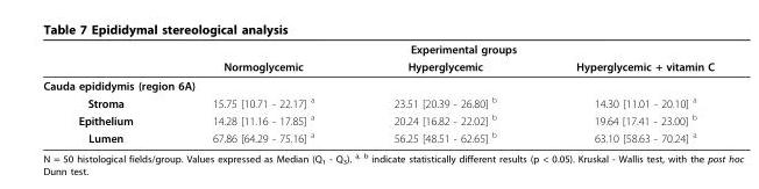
<table><thead><tr><td rowspan="2"></td><td colspan="3">Experimental groups</td></tr><tr><td>Normoglycemic</td><td>Hyperglycemic</td><td>Hyperglycemic + vitamin C</td></tr></thead><tbody><tr><td colspan="4">Cauda epididymis (region 6A)</td></tr><tr><td>Stroma</td><td>15.75 [10.71 - 22.17] <sup>a</sup></td><td>23.51 [20.39 - 26.80] <sup>b</sup></td><td>14.30 [11.01 - 20.10] <sup>a</sup></td></tr><tr><td>Epithelium</td><td>14.28 [11.16 - 17.85] <sup>a</sup></td><td>20.24 [16.82 - 22.02] <sup>b</sup></td><td>19.64 [17.41 - 23.00] <sup>b</sup></td></tr><tr><td>Lumen</td><td>67.86 [64.29 - 75.16] <sup>a</sup></td><td>56.25 [48.51 - 62.65] <sup>b</sup></td><td>63.10 [58.63 - 70.24] <sup>a</sup></td></tr></tbody></table>